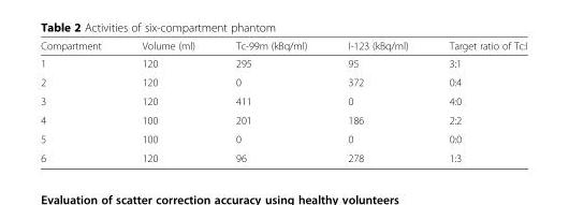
<table><thead><tr><td>Compartment</td><td>Volume (ml)</td><td>Tc-99m (kBq/ml)</td><td>I-123 (kBq/ml)</td><td>Target ratio of Tc:I</td></tr></thead><tbody><tr><td>1</td><td>120</td><td>295</td><td>95</td><td>3:1</td></tr><tr><td>2</td><td>120</td><td>0</td><td>372</td><td>0:4</td></tr><tr><td>3</td><td>120</td><td>411</td><td>0</td><td>4:0</td></tr><tr><td>4</td><td>100</td><td>201</td><td>186</td><td>2:2</td></tr><tr><td>5</td><td>100</td><td>0</td><td>0</td><td>0:0</td></tr><tr><td>6</td><td>120</td><td>96</td><td>278</td><td>1:3</td></tr></tbody></table>